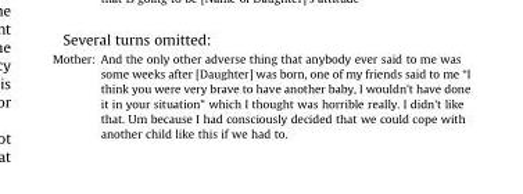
<table><tbody><tr><td>Mother:</td><td>And the only other adverse thing that anybody ever said to me was some weeks after [Daughter] was born, one of my friends said to me “I think you were very brave to have another baby, I wouldn&#x27;t have done it in your situation” which I thought was horrible really. I didn&#x27;t like that. Um because I had consciously decided that we could cope with another child like this if we had to.</td></tr></tbody></table>